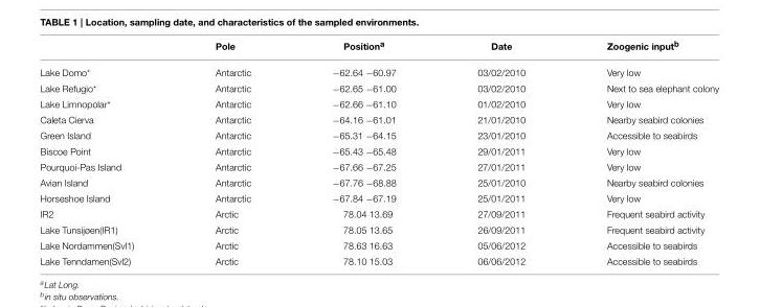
<table><thead><tr><td></td><td>Pole</td><td>Position<sup>a</sup></td><td>Date</td><td>Zoogenic input<sup>b</sup></td></tr></thead><tbody><tr><td>Lake Domo*</td><td>Antarctic</td><td>−62.64 −60.97</td><td>03/02/2010</td><td>Very low</td></tr><tr><td>Lake Refugio*</td><td>Antarctic</td><td>−62.65 −61.00</td><td>03/02/2010</td><td>Next to sea elephant colony</td></tr><tr><td>Lake Limnopolar*</td><td>Antarctic</td><td>−62.66 −61.10</td><td>01/02/2010</td><td>Very low</td></tr><tr><td>Caleta Cierva</td><td>Antarctic</td><td>−64.16 −61.01</td><td>21/01/2010</td><td>Nearby seabird colonies</td></tr><tr><td>Green Island</td><td>Antarctic</td><td>−65.31 −64.15</td><td>23/01/2010</td><td>Accessible to seabirds</td></tr><tr><td>Biscoe Point</td><td>Antarctic</td><td>−65.43 −65.48</td><td>29/01/2011</td><td>Very low</td></tr><tr><td>Pourquoi-Pas Island</td><td>Antarctic</td><td>−67.66 −67.25</td><td>27/01/2011</td><td>Very low</td></tr><tr><td>Avian Island</td><td>Antarctic</td><td>−67.76 −68.88</td><td>25/01/2010</td><td>Nearby seabird colonies</td></tr><tr><td>Horseshoe Island</td><td>Antarctic</td><td>−67.84 −67.19</td><td>25/01/2011</td><td>Very low</td></tr><tr><td>IR2</td><td>Arctic</td><td>78.04 13.69</td><td>27/09/2011</td><td>Frequent seabird activity</td></tr><tr><td>Lake Tunsijøen(IR1)</td><td>Arctic</td><td>78.05 13.65</td><td>26/09/2011</td><td>Frequent seabird activity</td></tr><tr><td>Lake Nordammen(Svl1)</td><td>Arctic</td><td>78.63 16.63</td><td>05/06/2012</td><td>Accessible to seabirds</td></tr><tr><td>Lake Tenndamen(Svl2)</td><td>Arctic</td><td>78.10 15.03</td><td>06/06/2012</td><td>Accessible to seabirds</td></tr></tbody></table>